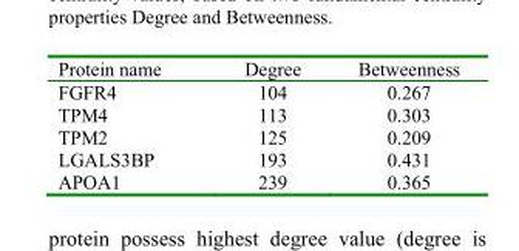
<table><thead><tr><td>Protein name</td><td>Degree</td><td>Betweenness</td></tr></thead><tbody><tr><td>FGFR4</td><td>104</td><td>0.267</td></tr><tr><td>TPM4</td><td>113</td><td>0.303</td></tr><tr><td>TPM2</td><td>125</td><td>0.209</td></tr><tr><td>LGALS3BP</td><td>193</td><td>0.431</td></tr><tr><td>APOA1</td><td>239</td><td>0.365</td></tr></tbody></table>